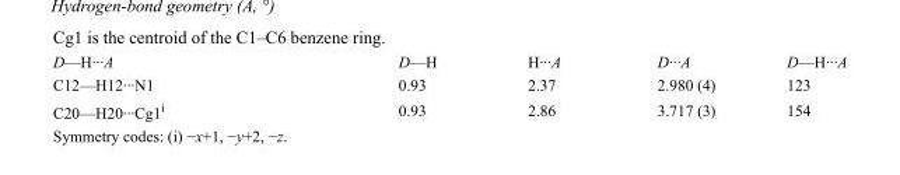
<table><tbody><tr><td>D—H···A</td><td>D—H</td><td>H···A</td><td>D···A</td><td>D—H···A</td></tr><tr><td>C12—H12···N1</td><td>0.93</td><td>2.37</td><td>2.980 (4)</td><td>123</td></tr><tr><td>C20—H20···Cg1<sup>i</sup></td><td>0.93</td><td>2.86</td><td>3.717 (3)</td><td>154</td></tr></tbody></table>